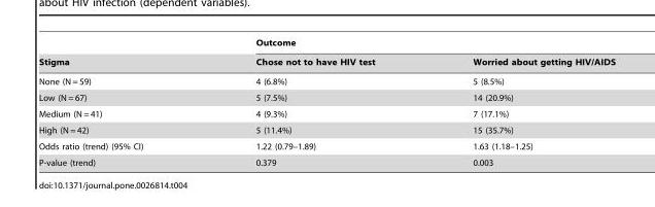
<table><thead><tr><td rowspan="2">Stigma</td><td colspan="2">Outcome</td></tr><tr><td>Chose not to have HIV test</td><td>Worried about getting HIV/AIDS</td></tr></thead><tbody><tr><td>None (N = 59)</td><td>4 (6.8%)</td><td>5 (8.5%)</td></tr><tr><td>Low (N = 67)</td><td>5 (7.5%)</td><td>14 (20.9%)</td></tr><tr><td>Medium (N = 41)</td><td>4 (9.3%)</td><td>7 (17.1%)</td></tr><tr><td>High (N = 42)</td><td>5 (11.4%)</td><td>15 (35.7%)</td></tr><tr><td>Odds ratio (trend) (95% CI)</td><td>1.22 (0.79–1.89)</td><td>1.63 (1.18–1.25)</td></tr><tr><td>P-value (trend)</td><td>0.379</td><td>0.003</td></tr></tbody></table>